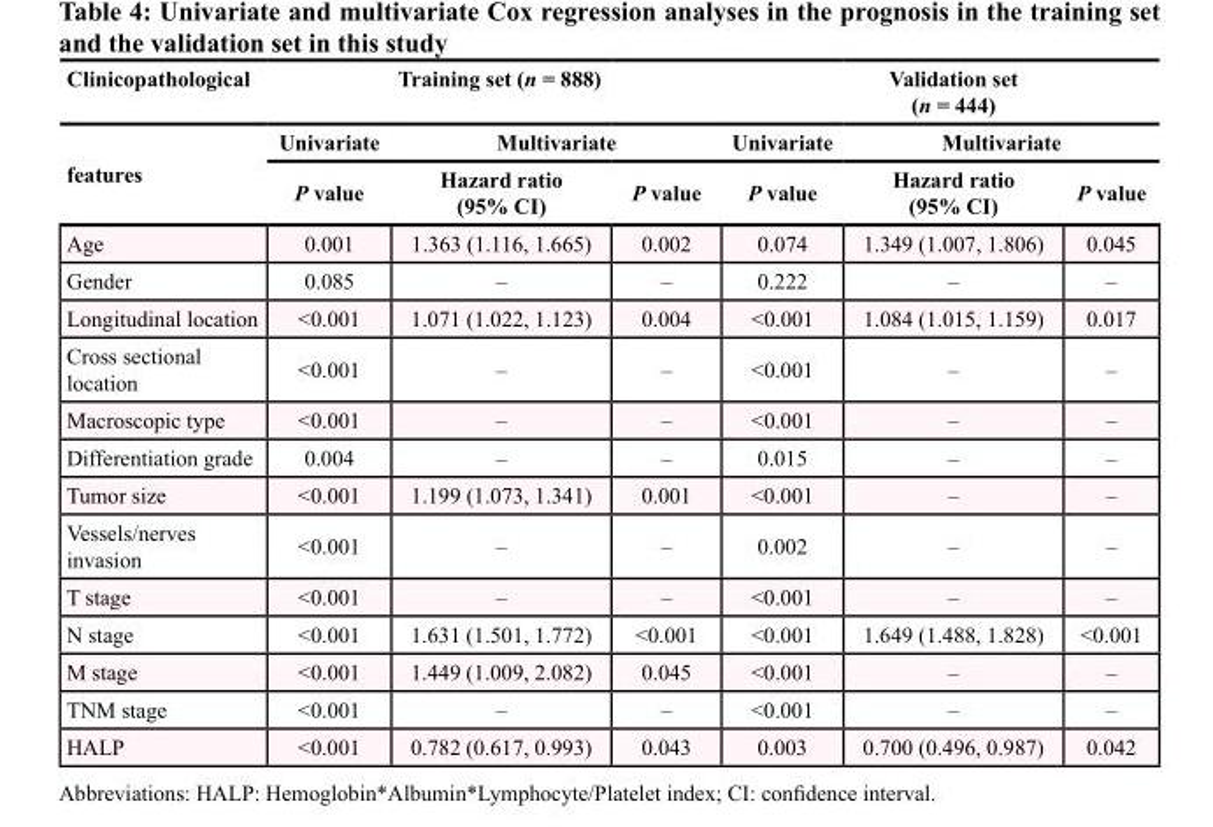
<table><thead><tr><td rowspan="3">Clinicopathological features</td><td colspan="3">Training set (n = 888)</td><td colspan="3">Validation set (n = 444)</td></tr><tr><td rowspan="2">Univariate P value</td><td colspan="2">Multivariate</td><td rowspan="2">Univariate P value</td><td colspan="2">Multivariate</td></tr><tr><td>Hazard ratio (95% CI)</td><td>P value</td><td>Hazard ratio (95% CI)</td><td>P value</td></tr></thead><tbody><tr><td>Age</td><td>0.001</td><td>1.363 (1.116, 1.665)</td><td>0.002</td><td>0.074</td><td>1.349 (1.007, 1.806)</td><td>0.045</td></tr><tr><td>Gender</td><td>0.085</td><td>–</td><td>–</td><td>0.222</td><td>–</td><td>–</td></tr><tr><td>Longitudinal location</td><td>&lt;0.001</td><td>1.071 (1.022, 1.123)</td><td>0.004</td><td>&lt;0.001</td><td>1.084 (1.015, 1.159)</td><td>0.017</td></tr><tr><td>Cross sectional location</td><td>&lt;0.001</td><td>–</td><td>–</td><td>&lt;0.001</td><td>–</td><td>–</td></tr><tr><td>Macroscopic type</td><td>&lt;0.001</td><td>–</td><td>–</td><td>&lt;0.001</td><td>–</td><td>–</td></tr><tr><td>Differentiation grade</td><td>0.004</td><td>–</td><td>–</td><td>0.015</td><td>–</td><td>–</td></tr><tr><td>Tumor size</td><td>&lt;0.001</td><td>1.199 (1.073, 1.341)</td><td>0.001</td><td>&lt;0.001</td><td>–</td><td>–</td></tr><tr><td>Vessels/nerves invasion</td><td>&lt;0.001</td><td>–</td><td>–</td><td>0.002</td><td>–</td><td>–</td></tr><tr><td>T stage</td><td>&lt;0.001</td><td>–</td><td>–</td><td>&lt;0.001</td><td>–</td><td>–</td></tr><tr><td>N stage</td><td>&lt;0.001</td><td>1.631 (1.501, 1.772)</td><td>&lt;0.001</td><td>&lt;0.001</td><td>1.649 (1.488, 1.828)</td><td>&lt;0.001</td></tr><tr><td>M stage</td><td>&lt;0.001</td><td>1.449 (1.009, 2.082)</td><td>0.045</td><td>&lt;0.001</td><td>–</td><td>–</td></tr><tr><td>TNM stage</td><td>&lt;0.001</td><td>–</td><td>–</td><td>&lt;0.001</td><td>–</td><td>–</td></tr><tr><td>HALP</td><td>&lt;0.001</td><td>0.782 (0.617, 0.993)</td><td>0.043</td><td>0.003</td><td>0.700 (0.496, 0.987)</td><td>0.042</td></tr></tbody></table>